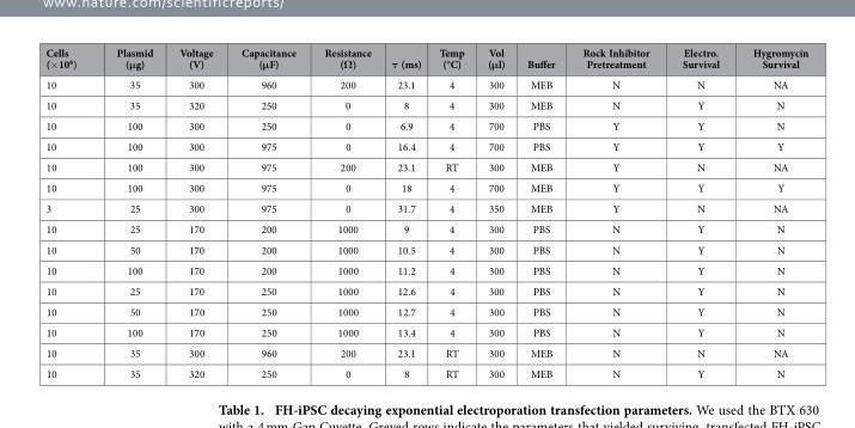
<table><thead><tr><td>Cells (× 10<sup>6</sup>)</td><td>Plasmid (μg)</td><td>Voltage (V)</td><td>Capacitance (μF)</td><td>Resistance (Ω)</td><td>τ (ms)</td><td>Temp (°C)</td><td>Vol (μl)</td><td>Buffer</td><td>Rock Inhibitor Pretreatment</td><td>Electro. Survival</td><td>Hygromycin Survival</td></tr></thead><tbody><tr><td>10</td><td>35</td><td>300</td><td>960</td><td>200</td><td>23.1</td><td>4</td><td>300</td><td>MEB</td><td>N</td><td>N</td><td>NA</td></tr><tr><td>10</td><td>35</td><td>320</td><td>250</td><td>0</td><td>8</td><td>4</td><td>300</td><td>MEB</td><td>N</td><td>Y</td><td>N</td></tr><tr><td>10</td><td>100</td><td>300</td><td>250</td><td>0</td><td>6.9</td><td>4</td><td>700</td><td>PBS</td><td>Y</td><td>Y</td><td>N</td></tr><tr><td>10</td><td>100</td><td>300</td><td>975</td><td>0</td><td>16.4</td><td>4</td><td>700</td><td>PBS</td><td>Y</td><td>Y</td><td>Y</td></tr><tr><td>10</td><td>100</td><td>300</td><td>975</td><td>200</td><td>23.1</td><td>RT</td><td>300</td><td>MEB</td><td>Y</td><td>N</td><td>NA</td></tr><tr><td>10</td><td>100</td><td>300</td><td>975</td><td>0</td><td>18</td><td>4</td><td>700</td><td>MEB</td><td>Y</td><td>Y</td><td>Y</td></tr><tr><td>3</td><td>25</td><td>300</td><td>975</td><td>0</td><td>31.7</td><td>4</td><td>350</td><td>MEB</td><td>Y</td><td>N</td><td>NA</td></tr><tr><td>10</td><td>25</td><td>170</td><td>200</td><td>1000</td><td>9</td><td>4</td><td>300</td><td>PBS</td><td>N</td><td>Y</td><td>N</td></tr><tr><td>10</td><td>50</td><td>170</td><td>200</td><td>1000</td><td>10.5</td><td>4</td><td>300</td><td>PBS</td><td>N</td><td>Y</td><td>N</td></tr><tr><td>10</td><td>100</td><td>170</td><td>200</td><td>1000</td><td>11.2</td><td>4</td><td>300</td><td>PBS</td><td>N</td><td>Y</td><td>N</td></tr><tr><td>10</td><td>25</td><td>170</td><td>250</td><td>1000</td><td>12.6</td><td>4</td><td>300</td><td>PBS</td><td>N</td><td>Y</td><td>N</td></tr><tr><td>10</td><td>50</td><td>170</td><td>250</td><td>1000</td><td>12.7</td><td>4</td><td>300</td><td>PBS</td><td>N</td><td>Y</td><td>N</td></tr><tr><td>10</td><td>100</td><td>170</td><td>250</td><td>1000</td><td>13.4</td><td>4</td><td>300</td><td>PBS</td><td>N</td><td>Y</td><td>N</td></tr><tr><td>10</td><td>35</td><td>300</td><td>960</td><td>200</td><td>23.1</td><td>RT</td><td>300</td><td>MEB</td><td>N</td><td>N</td><td>NA</td></tr><tr><td>10</td><td>35</td><td>320</td><td>250</td><td>0</td><td>8</td><td>RT</td><td>300</td><td>MEB</td><td>N</td><td>Y</td><td>N</td></tr></tbody></table>